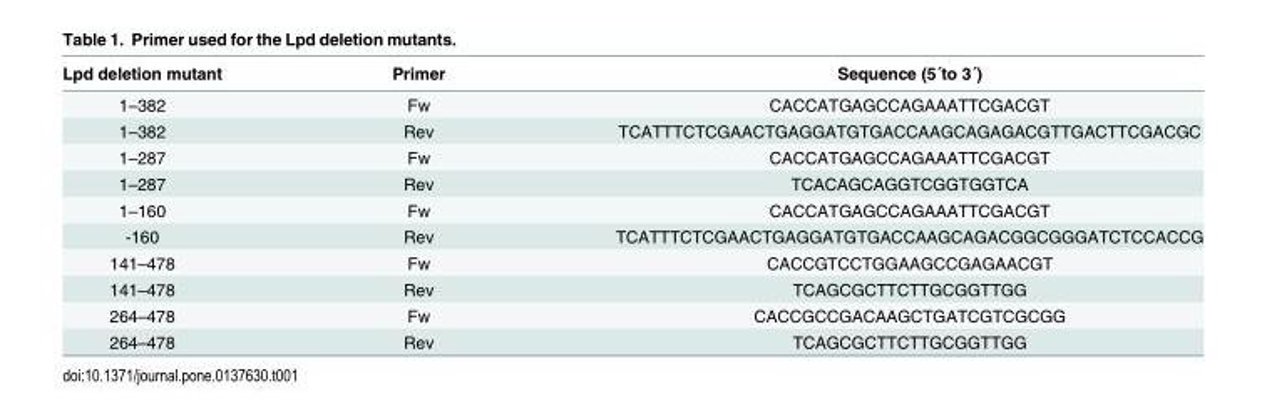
<table><thead><tr><td>Lpd deletion mutant</td><td>Primer</td><td>Sequence (5´to 3´)</td></tr></thead><tbody><tr><td>1–382</td><td>Fw</td><td>CACCATGAGCCAGAAATTCGACGT</td></tr><tr><td>1–382</td><td>Rev</td><td>TCATTTCTCGAACTGAGGATGTGACCAAGCAGAGACGTTGACTTCGACGC</td></tr><tr><td>1–287</td><td>Fw</td><td>CACCATGAGCCAGAAATTCGACGT</td></tr><tr><td>1–287</td><td>Rev</td><td>TCACAGCAGGTCGGTGGTCA</td></tr><tr><td>1–160</td><td>Fw</td><td>CACCATGAGCCAGAAATTCGACGT</td></tr><tr><td>-160</td><td>Rev</td><td>TCATTTCTCGAACTGAGGATGTGACCAAGCAGACGGCGGGATCTCCACCG</td></tr><tr><td>141–478</td><td>Fw</td><td>CACCGTCCTGGAAGCCGAGAACGT</td></tr><tr><td>141–478</td><td>Rev</td><td>TCAGCGCTTCTTGCGGTTGG</td></tr><tr><td>264–478</td><td>Fw</td><td>CACCGCCGACAAGCTGATCGTCGCGG</td></tr><tr><td>264–478</td><td>Rev</td><td>TCAGCGCTTCTTGCGGTTGG</td></tr></tbody></table>